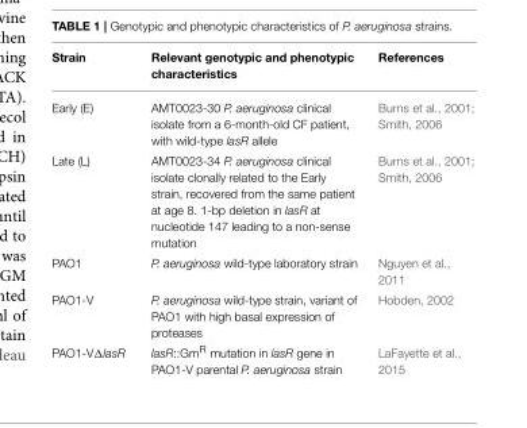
<table><thead><tr><td>Strain</td><td>Relevant genotypic and phenotypic characteristics</td><td>References</td></tr></thead><tbody><tr><td>Early (E)</td><td>AMT0023-30 P. aeruginosa clinical isolate from a 6-month-old CF patient, with wild-type lasR allele</td><td>Burns et al., 2001; Smith, 2006</td></tr><tr><td>Late (L)</td><td>AMT0023-34 P. aeruginosa clinical isolate clonally related to the Early strain, recovered from the same patient at age 8. 1-bp deletion in lasR at nucleotide 147 leading to a non-sense mutation</td><td>Burns et al., 2001; Smith, 2006</td></tr><tr><td>PAO1</td><td>P. aeruginosa wild-type laboratory strain</td><td>Nguyen et al., 2011</td></tr><tr><td>PAO1-V</td><td>P. aeruginosa wild-type strain, variant of PAO1 with high basal expression of proteases</td><td>Hobden, 2002</td></tr><tr><td>PAO1-VΔlasR</td><td>lasR::Gm<sup>R</sup> mutation in lasR gene in PAO1-V parental P. aeruginosa strain</td><td>LaFayette et al., 2015</td></tr></tbody></table>